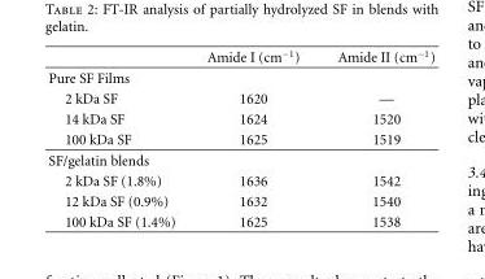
<table><thead><tr><td></td><td>Amide I (cm<sup>−1</sup>)</td><td>Amide II (cm<sup>−1</sup>)</td></tr></thead><tbody><tr><td colspan="3">Pure SF Films</td></tr><tr><td>2 kDa SF</td><td>1620</td><td>—</td></tr><tr><td>14 kDa SF</td><td>1624</td><td>1520</td></tr><tr><td>100 kDa SF</td><td>1625</td><td>1519</td></tr><tr><td colspan="3">SF/gelatin blends</td></tr><tr><td>2 kDa SF (1.8%)</td><td>1636</td><td>1542</td></tr><tr><td>12 kDa SF (0.9%)</td><td>1632</td><td>1540</td></tr><tr><td>100 kDa SF (1.4%)</td><td>1625</td><td>1538</td></tr></tbody></table>